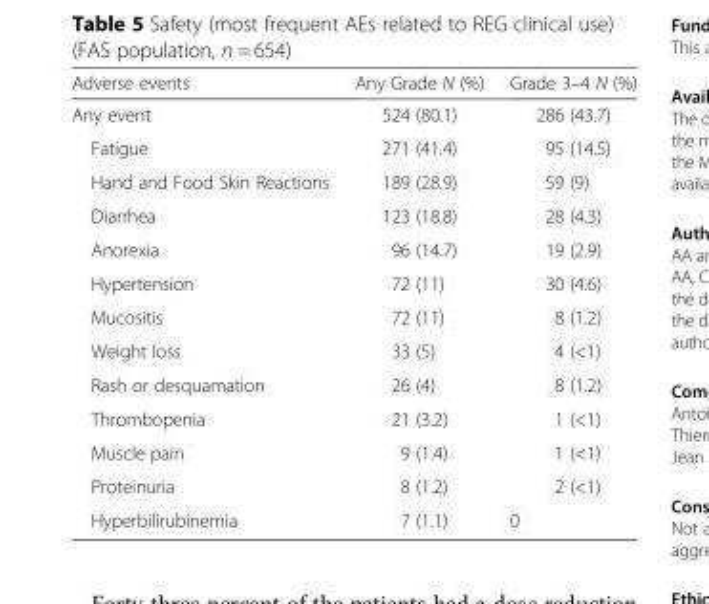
<table><thead><tr><td>Adverse events</td><td>Any Grade N (%)</td><td>Grade 3–4 N (%)</td></tr></thead><tbody><tr><td>Any event</td><td>524 (80.1)</td><td>286 (43.7)</td></tr><tr><td>Fatigue</td><td>271 (41.4)</td><td>95 (14.5)</td></tr><tr><td>Hand and Food Skin Reactions</td><td>189 (28.9)</td><td>59 (9)</td></tr><tr><td>Diarrhea</td><td>123 (18.8)</td><td>28 (4.3)</td></tr><tr><td>Anorexia</td><td>96 (14.7)</td><td>19 (2.9)</td></tr><tr><td>Hypertension</td><td>72 (11)</td><td>30 (4.6)</td></tr><tr><td>Mucositis</td><td>72 (11)</td><td>8 (1.2)</td></tr><tr><td>Weight loss</td><td>33 (5)</td><td>4 (&lt;1)</td></tr><tr><td>Rash or desquamation</td><td>26 (4)</td><td>8 (1.2)</td></tr><tr><td>Thrombopenia</td><td>21 (3.2)</td><td>1 (&lt;1)</td></tr><tr><td>Muscle pain</td><td>9 (1.4)</td><td>1 (&lt;1)</td></tr><tr><td>Proteinuria</td><td>8 (1.2)</td><td>2 (&lt;1)</td></tr><tr><td>Hyperbilirubinemia</td><td>7 (1.1)</td><td>0</td></tr></tbody></table>